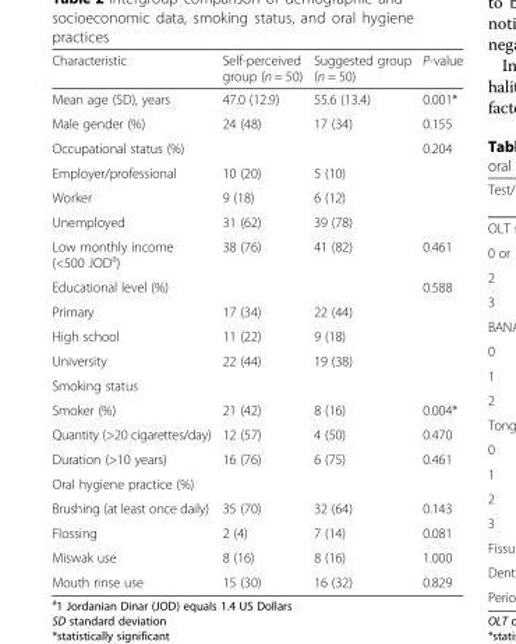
<table><thead><tr><td>Characteristic</td><td>Self-perceived group (n = 50)</td><td>Suggested group (n = 50)</td><td>P-value</td></tr></thead><tbody><tr><td>Mean age (SD), years</td><td>47.0 (12.9)</td><td>55.6 (13.4)</td><td>0.001*</td></tr><tr><td>Male gender (%)</td><td>24 (48)</td><td>17 (34)</td><td>0.155</td></tr><tr><td>Occupational status (%)</td><td></td><td></td><td>0.204</td></tr><tr><td>Employer/professional</td><td>10 (20)</td><td>5 (10)</td><td></td></tr><tr><td>Worker</td><td>9 (18)</td><td>6 (12)</td><td></td></tr><tr><td>Unemployed</td><td>31 (62)</td><td>39 (78)</td><td></td></tr><tr><td>Low monthly income (&lt;500 JOD<sup>a</sup>)</td><td>38 (76)</td><td>41 (82)</td><td>0.461</td></tr><tr><td>Educational level (%)</td><td></td><td></td><td>0.588</td></tr><tr><td>Primary</td><td>17 (34)</td><td>22 (44)</td><td></td></tr><tr><td>High school</td><td>11 (22)</td><td>9 (18)</td><td></td></tr><tr><td>University</td><td>22 (44)</td><td>19 (38)</td><td></td></tr><tr><td colspan="4">Smoking status</td></tr><tr><td>Smoker (%)</td><td>21 (42)</td><td>8 (16)</td><td>0.004*</td></tr><tr><td>Quantity (&gt;20 cigarettes/day)</td><td>12 (57)</td><td>4 (50)</td><td>0.470</td></tr><tr><td>Duration (&gt;10 years)</td><td>16 (76)</td><td>6 (75)</td><td>0.461</td></tr><tr><td colspan="4">Oral hygiene practice (%)</td></tr><tr><td>Brushing (at least once daily)</td><td>35 (70)</td><td>32 (64)</td><td>0.143</td></tr><tr><td>Flossing</td><td>2 (4)</td><td>7 (14)</td><td>0.081</td></tr><tr><td>Miswak use</td><td>8 (16)</td><td>8 (16)</td><td>1.000</td></tr><tr><td>Mouth rinse use</td><td>15 (30)</td><td>16 (32)</td><td>0.829</td></tr></tbody></table>